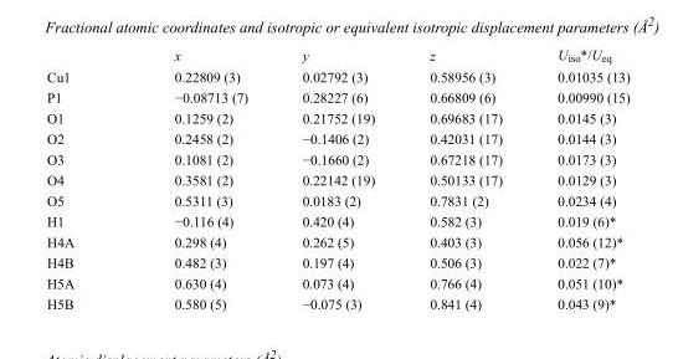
<table><thead><tr><td></td><td>x</td><td>y</td><td>z</td><td>U<sub>iso</sub>*/U<sub>eq</sub></td></tr></thead><tbody><tr><td>Cu1</td><td>0.22809 (3)</td><td>0.02792 (3)</td><td>0.58956 (3)</td><td>0.01035 (13)</td></tr><tr><td>P1</td><td>−0.08713 (7)</td><td>0.28227 (6)</td><td>0.66809 (6)</td><td>0.00990 (15)</td></tr><tr><td>O1</td><td>0.1259 (2)</td><td>0.21752 (19)</td><td>0.69683 (17)</td><td>0.0145 (3)</td></tr><tr><td>O2</td><td>0.2458 (2)</td><td>−0.1406 (2)</td><td>0.42031 (17)</td><td>0.0144 (3)</td></tr><tr><td>O3</td><td>0.1081 (2)</td><td>−0.1660 (2)</td><td>0.67218 (17)</td><td>0.0173 (3)</td></tr><tr><td>O4</td><td>0.3581 (2)</td><td>0.22142 (19)</td><td>0.50133 (17)</td><td>0.0129 (3)</td></tr><tr><td>O5</td><td>0.5311 (3)</td><td>0.0183 (2)</td><td>0.7831 (2)</td><td>0.0234 (4)</td></tr><tr><td>H1</td><td>−0.116 (4)</td><td>0.420 (4)</td><td>0.582 (3)</td><td>0.019 (6)*</td></tr><tr><td>H4A</td><td>0.298 (4)</td><td>0.262 (5)</td><td>0.403 (3)</td><td>0.056 (12)*</td></tr><tr><td>H4B</td><td>0.482 (3)</td><td>0.197 (4)</td><td>0.506 (3)</td><td>0.022 (7)*</td></tr><tr><td>H5A</td><td>0.630 (4)</td><td>0.073 (4)</td><td>0.766 (4)</td><td>0.051 (10)*</td></tr><tr><td>H5B</td><td>0.580 (5)</td><td>−0.075 (3)</td><td>0.841 (4)</td><td>0.043 (9)*</td></tr></tbody></table>